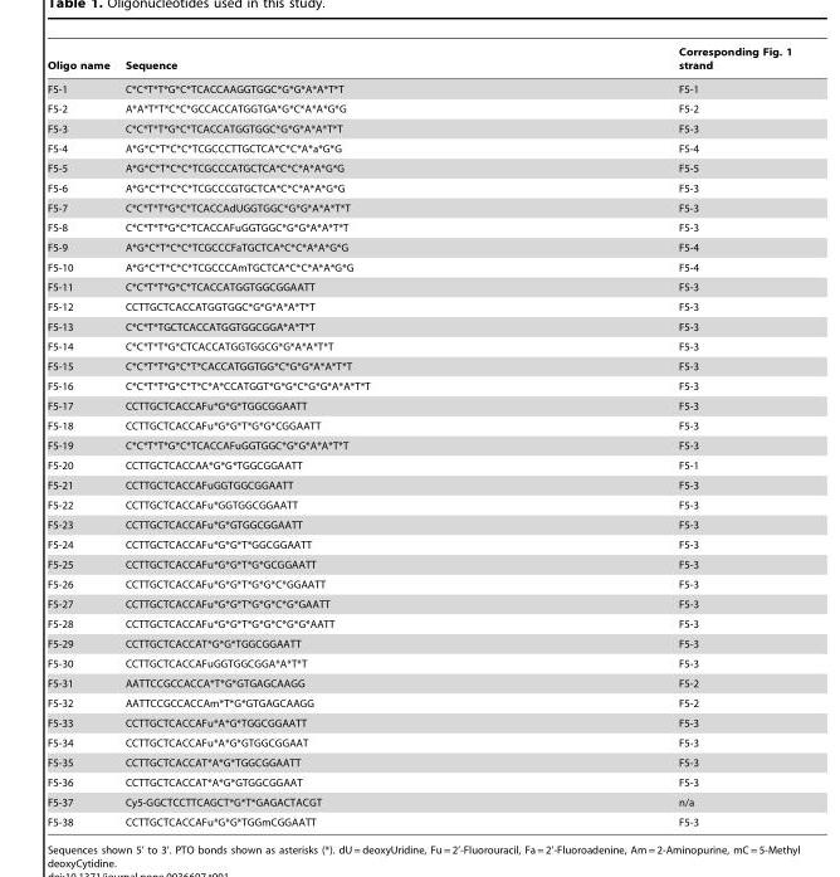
<table><thead><tr><td>Oligo name</td><td>Sequence</td><td>Corresponding Fig. 1 strand</td></tr></thead><tbody><tr><td>F5-1</td><td>C*C*T*T*G*C*TCACCAAGGTGGC*G*G*A*A*T*T</td><td>F5-1</td></tr><tr><td>F5-2</td><td>A*A*T*T*C*C*GCCACCATGGTGA*G*C*A*A*G*G</td><td>F5-2</td></tr><tr><td>F5-3</td><td>C*C*T*T*G*C*TCACCATGGTGGC*G*G*A*A*T*T</td><td>F5-3</td></tr><tr><td>F5-4</td><td>A*G*C*T*C*C*TCGCCCTTGCTCA*C*C*A*a*G*G</td><td>F5-4</td></tr><tr><td>F5-5</td><td>A*G*C*T*C*C*TCGCCCATGCTCA*C*C*A*A*G*G</td><td>F5-5</td></tr><tr><td>F5-6</td><td>A*G*C*T*C*C*TCGCCCGTGCTCA*C*C*A*A*G*G</td><td>F5-3</td></tr><tr><td>F5-7</td><td>C*C*T*T*G*C*TCACCAdUGGTGGC*G*G*A*A*T*T</td><td>F5-3</td></tr><tr><td>F5-8</td><td>C*C*T*T*G*C*TCACCAFuGGTGGC*G*G*A*A*T*T</td><td>F5-3</td></tr><tr><td>F5-9</td><td>A*G*C*T*C*C*TCGCCCFaTGCTCA*C*C*A*A*G*G</td><td>F5-4</td></tr><tr><td>F5-10</td><td>A*G*C*T*C*C*TCGCCCAmTGCTCA*C*C*A*A*G*G</td><td>F5-4</td></tr><tr><td>F5-11</td><td>C*C*T*T*G*C*TCACCATGGTGGCGGAATT</td><td>F5-3</td></tr><tr><td>F5-12</td><td>CCTTGCTCACCATGGTGGC*G*G*A*A*T*T</td><td>F5-3</td></tr><tr><td>F5-13</td><td>C*C*T*TGCTCACCATGGTGGCGGA*A*T*T</td><td>F5-3</td></tr><tr><td>F5-14</td><td>C*C*T*T*G*CTCACCATGGTGGCG*G*A*A*T*T</td><td>F5-3</td></tr><tr><td>F5-15</td><td>C*C*T*T*G*C*T*CACCATGGTGG*C*G*G*A*A*T*T</td><td>F5-3</td></tr><tr><td>F5-16</td><td>C*C*T*T*G*C*T*C*A*CCATGGT*G*G*C*G*G*A*A*T*T</td><td>F5-3</td></tr><tr><td>F5-17</td><td>CCTTGCTCACCAFu*G*G*TGGCGGAATT</td><td>F5-3</td></tr><tr><td>F5-18</td><td>CCTTGCTCACCAFu*G*G*T*G*G*CGGAATT</td><td>F5-3</td></tr><tr><td>F5-19</td><td>C*C*T*T*G*C*TCACCAFuGGTGGC*G*G*A*A*T*T</td><td>F5-3</td></tr><tr><td>F5-20</td><td>CCTTGCTCACCAA*G*G*TGGCGGAATT</td><td>F5-1</td></tr><tr><td>F5-21</td><td>CCTTGCTCACCAFuGGTGGCGGAATT</td><td>F5-3</td></tr><tr><td>F5-22</td><td>CCTTGCTCACCAFu*GGTGGCGGAATT</td><td>F5-3</td></tr><tr><td>F5-23</td><td>CCTTGCTCACCAFu*G*GTGGCGGAATT</td><td>F5-3</td></tr><tr><td>F5-24</td><td>CCTTGCTCACCAFu*G*G*T*GGCGGAATT</td><td>F5-3</td></tr><tr><td>F5-25</td><td>CCTTGCTCACCAFu*G*G*T*G*GCGGAATT</td><td>F5-3</td></tr><tr><td>F5-26</td><td>CCTTGCTCACCAFu*G*G*T*G*G*C*GGAATT</td><td>F5-3</td></tr><tr><td>F5-27</td><td>CCTTGCTCACCAFu*G*G*T*G*G*C*G*GAATT</td><td>F5-3</td></tr><tr><td>F5-28</td><td>CCTTGCTCACCAFu*G*G*T*G*G*C*G*G*AATT</td><td>F5-3</td></tr><tr><td>F5-29</td><td>CCTTGCTCACCAT*G*G*TGGCGGAATT</td><td>F5-3</td></tr><tr><td>F5-30</td><td>CCTTGCTCACCAFuGGTGGCGGA*A*T*T</td><td>F5-3</td></tr><tr><td>F5-31</td><td>AATTCCGCCACCA*T*G*GTGAGCAAGG</td><td>F5-2</td></tr><tr><td>F5-32</td><td>AATTCCGCCACCAm*T*G*GTGAGCAAGG</td><td>F5-2</td></tr><tr><td>F5-33</td><td>CCTTGCTCACCAFu*A*G*TGGCGGAATT</td><td>F5-3</td></tr><tr><td>F5-34</td><td>CCTTGCTCACCAFu*A*G*GTGGCGGAAT</td><td>F5-3</td></tr><tr><td>F5-35</td><td>CCTTGCTCACCAT*A*G*TGGCGGAATT</td><td>F5-3</td></tr><tr><td>F5-36</td><td>CCTTGCTCACCAT*A*G*GTGGCGGAAT</td><td>F5-3</td></tr><tr><td>F5-37</td><td>Cy5-GGCTCCTTCAGCT*G*T*GAGACTACGT</td><td>n/a</td></tr><tr><td>F5-38</td><td>CCTTGCTCACCAFu*G*G*TGGmCGGAATT</td><td>F5-3</td></tr></tbody></table>